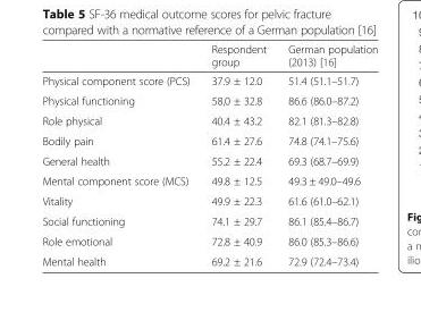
<table><thead><tr><td></td><td>Respondent group</td><td>German population (2013) [16]</td></tr></thead><tbody><tr><td>Physical component score (PCS)</td><td>37.9 ± 12.0</td><td>51.4 (51.1–51.7)</td></tr><tr><td>Physical functioning</td><td>58,0 ± 32.8</td><td>86.6 (86.0–87.2)</td></tr><tr><td>Role physical</td><td>40.4 ± 43.2</td><td>82.1 (81.3–82.8)</td></tr><tr><td>Bodily pain</td><td>61.4 ± 27.6</td><td>74.8 (74.1–75.6)</td></tr><tr><td>General health</td><td>55.2 ± 22.4</td><td>69.3 (68.7–69.9)</td></tr><tr><td>Mental component score (MCS)</td><td>49.8 ± 12.5</td><td>49.3 ± 49.0–49.6</td></tr><tr><td>Vitality</td><td>49.9 ± 22.3</td><td>61.6 (61.0–62.1)</td></tr><tr><td>Social functioning</td><td>74.1 ± 29.7</td><td>86.1 (85.4–86.7)</td></tr><tr><td>Role emotional</td><td>72.8 ± 40.9</td><td>86.0 (85.3–86.6)</td></tr><tr><td>Mental health</td><td>69.2 ± 21.6</td><td>72.9 (72.4–73.4)</td></tr></tbody></table>